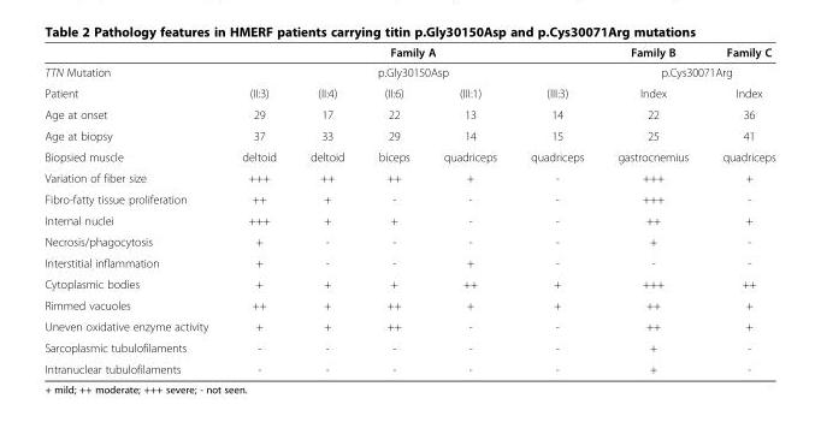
<table><thead><tr><td rowspan="3">TTN Mutation Patient</td><td rowspan="2" colspan="5">Family A p.Gly30150Asp</td><td>Family B</td><td>Family C</td></tr><tr><td colspan="2">p.Cys30071Arg</td></tr><tr><td>(II:3)</td><td>(II:4)</td><td>(II:6)</td><td>(III:1)</td><td>(III:3)</td><td>Index</td><td>Index</td></tr></thead><tbody><tr><td>Age at onset</td><td>29</td><td>17</td><td>22</td><td>13</td><td>14</td><td>22</td><td>36</td></tr><tr><td>Age at biopsy</td><td>37</td><td>33</td><td>29</td><td>14</td><td>15</td><td>25</td><td>41</td></tr><tr><td>Biopsied muscle</td><td>deltoid</td><td>deltoid</td><td>biceps</td><td>quadriceps</td><td>quadriceps</td><td>gastrocnemius</td><td>quadriceps</td></tr><tr><td>Variation of fiber size</td><td>+++</td><td>++</td><td>++</td><td>+</td><td>-</td><td>+++</td><td>+</td></tr><tr><td>Fibro-fatty tissue proliferation</td><td>++</td><td>+</td><td>-</td><td>-</td><td>-</td><td>+++</td><td>-</td></tr><tr><td>Internal nuclei</td><td>+++</td><td>+</td><td>+</td><td>-</td><td>-</td><td>++</td><td>+</td></tr><tr><td>Necrosis/phagocytosis</td><td>+</td><td>-</td><td>-</td><td>-</td><td>-</td><td>+</td><td>-</td></tr><tr><td>Interstitial inflammation</td><td>+</td><td>-</td><td>-</td><td>+</td><td>-</td><td>-</td><td>-</td></tr><tr><td>Cytoplasmic bodies</td><td>+</td><td>+</td><td>+</td><td>++</td><td>+</td><td>+++</td><td>++</td></tr><tr><td>Rimmed vacuoles</td><td>++</td><td>+</td><td>++</td><td>+</td><td>+</td><td>++</td><td>+</td></tr><tr><td>Uneven oxidative enzyme activity</td><td>+</td><td>+</td><td>++</td><td>-</td><td>-</td><td>++</td><td>+</td></tr><tr><td>Sarcoplasmic tubulofilaments</td><td>-</td><td>-</td><td>-</td><td>-</td><td>-</td><td>+</td><td>-</td></tr><tr><td>Intranuclear tubulofilaments</td><td>-</td><td>-</td><td>-</td><td>-</td><td>-</td><td>+</td><td>-</td></tr></tbody></table>